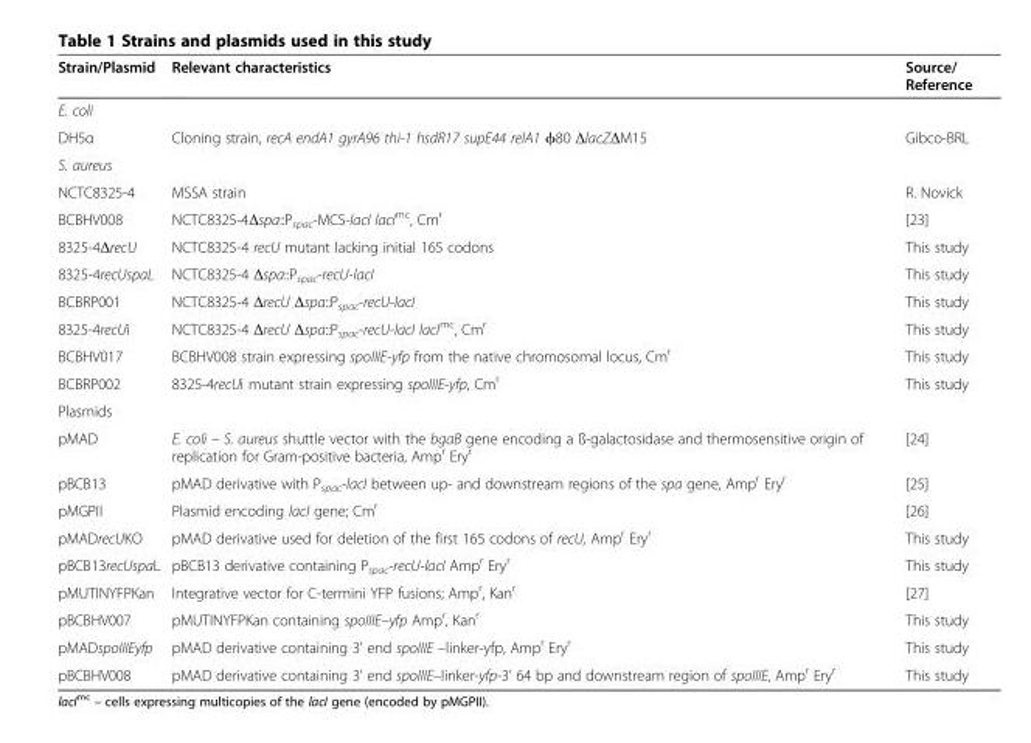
<table><thead><tr><td>Strain/Plasmid</td><td>Relevant characteristics</td><td>Source/ Reference</td></tr></thead><tbody><tr><td colspan="3">E. coli</td></tr><tr><td>DH5α</td><td>Cloning strain, recA endA1 gyrA96 thi-1 hsdR17 supE44 relA1 ϕ80 ΔlacZΔM15</td><td>Gibco-BRL</td></tr><tr><td colspan="3">S. aureus</td></tr><tr><td>NCTC8325-4</td><td>MSSA strain</td><td>R. Novick</td></tr><tr><td>BCBHV008</td><td>NCTC8325-4Δspa::P<sub>spac</sub>-MCS-lacI lacI<sup>mc</sup>, Cm<sup>r</sup></td><td>[23]</td></tr><tr><td>8325-4ΔrecU</td><td>NCTC8325-4 recU mutant lacking initial 165 codons</td><td>This study</td></tr><tr><td>8325-4recUspaL</td><td>NCTC8325-4 Δspa::P<sub>spac</sub>-recU-lacI</td><td>This study</td></tr><tr><td>BCBRP001</td><td>NCTC8325-4 ΔrecU Δspa::P<sub>spac</sub>-recU-lacI</td><td>This study</td></tr><tr><td>8325-4recUi</td><td>NCTC8325-4 ΔrecU Δspa::P<sub>spac</sub>-recU-lacI lacI<sup>mc</sup>, Cm<sup>r</sup></td><td>This study</td></tr><tr><td>BCBHV017</td><td>BCBHV008 strain expressing spoIIIE-yfp from the native chromosomal locus, Cm<sup>r</sup></td><td>This study</td></tr><tr><td>BCBRP002</td><td>8325-4recUi mutant strain expressing spoIIIE-yfp, Cm<sup>r</sup></td><td>This study</td></tr><tr><td colspan="3">Plasmids</td></tr><tr><td>pMAD</td><td>E. coli – S. aureus shuttle vector with the bgaB gene encoding a ß-galactosidase and thermosensitive origin of replication for Gram-positive bacteria, Amp<sup>r</sup> Ery<sup>r</sup></td><td>[24]</td></tr><tr><td>pBCB13</td><td>pMAD derivative with P<sub>spac</sub>-lacI between up- and downstream regions of the spa gene, Amp<sup>r</sup> Ery<sup>r</sup></td><td>[25]</td></tr><tr><td>pMGPII</td><td>Plasmid encoding lacI gene; Cm<sup>r</sup></td><td>[26]</td></tr><tr><td>pMADrecUKO</td><td>pMAD derivative used for deletion of the first 165 codons of recU, Amp<sup>r</sup> Ery<sup>r</sup></td><td>This study</td></tr><tr><td>pBCB13recUspaL</td><td>pBCB13 derivative containing P<sub>spac</sub>-recU-lacI Amp<sup>r</sup> Ery<sup>r</sup></td><td>This study</td></tr><tr><td>pMUTINYFPKan</td><td>Integrative vector for C-termini YFP fusions; Amp<sup>r</sup>, Kan<sup>r</sup></td><td>[27]</td></tr><tr><td>pBCBHV007</td><td>pMUTINYFPKan containing spoIIIE–yfp Amp<sup>r</sup>, Kan<sup>r</sup></td><td>This study</td></tr><tr><td>pMADspoIIIEyfp</td><td>pMAD derivative containing 3’ end spoIIIE –linker-yfp, Amp<sup>r</sup> Ery<sup>r</sup></td><td>This study</td></tr><tr><td>pBCBHV008</td><td>pMAD derivative containing 3’ end spoIIIE–linker-yfp-3’ 64 bp and downstream region of spoIIIE, Amp<sup>r</sup> Ery<sup>r</sup></td><td>This study</td></tr></tbody></table>